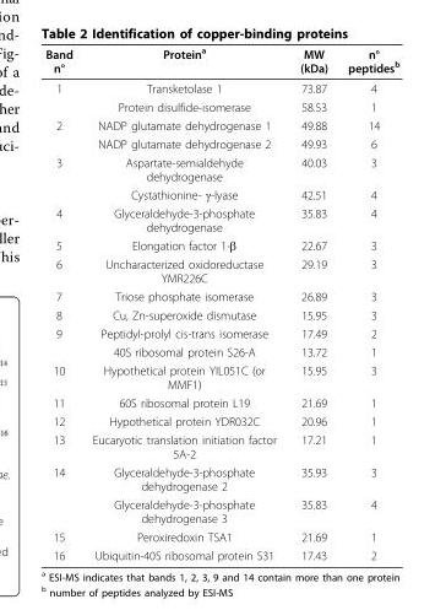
<table><thead><tr><td>Band n°</td><td>Protein<sup>a</sup></td><td>MW (kDa)</td><td>n° peptides<sup>b</sup></td></tr></thead><tbody><tr><td rowspan="2">1</td><td>Transketolase 1</td><td>73.87</td><td>4</td></tr><tr><td>Protein disulfide-isomerase</td><td>58.53</td><td>1</td></tr><tr><td rowspan="2">2</td><td>NADP glutamate dehydrogenase 1</td><td>49.88</td><td>14</td></tr><tr><td>NADP glutamate dehydrogenase 2</td><td>49.93</td><td>6</td></tr><tr><td rowspan="2">3</td><td>Aspartate-semialdehyde dehydrogenase</td><td>40.03</td><td>3</td></tr><tr><td>Cystathionine- γ-lyase</td><td>42.51</td><td>4</td></tr><tr><td>4</td><td>Glyceraldehyde-3-phosphate dehydrogenase</td><td>35.83</td><td>4</td></tr><tr><td>5</td><td>Elongation factor 1-β</td><td>22.67</td><td>3</td></tr><tr><td>6</td><td>Uncharacterized oxidoreductase YMR226C</td><td>29.19</td><td>3</td></tr><tr><td>7</td><td>Triose phosphate isomerase</td><td>26.89</td><td>3</td></tr><tr><td>8</td><td>Cu, Zn-superoxide dismutase</td><td>15.95</td><td>3</td></tr><tr><td rowspan="2">9</td><td>Peptidyl-prolyl cis-trans isomerase</td><td>17.49</td><td>2</td></tr><tr><td>40S ribosomal protein S26-A</td><td>13.72</td><td>1</td></tr><tr><td>10</td><td>Hypothetical protein YIL051C (or MMF1)</td><td>15.95</td><td>3</td></tr><tr><td>11</td><td>60S ribosomal protein L19</td><td>21.69</td><td>1</td></tr><tr><td>12</td><td>Hypothetical protein YDR032C</td><td>20.96</td><td>1</td></tr><tr><td>13</td><td>Eucaryotic translation initiation factor 5A-2</td><td>17.21</td><td>1</td></tr><tr><td rowspan="2">14</td><td>Glyceraldehyde-3-phosphate dehydrogenase 2</td><td>35.93</td><td>3</td></tr><tr><td>Glyceraldehyde-3-phosphate dehydrogenase 3</td><td>35.83</td><td>4</td></tr><tr><td>15</td><td>Peroxiredoxin TSA1</td><td>21.69</td><td>1</td></tr><tr><td>16</td><td>Ubiquitin-40S ribosomal protein S31</td><td>17.43</td><td>2</td></tr></tbody></table>